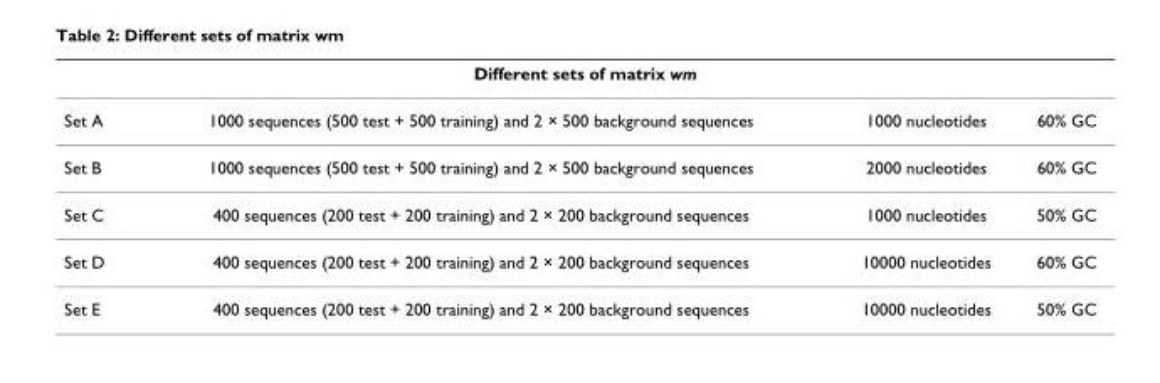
<table><thead><tr><td colspan="4">Different sets of matrix wm</td></tr><tr><td>Set A</td><td>1000 sequences (500 test + 500 training) and 2 × 500 background sequences</td><td>1000 nucleotides</td><td>60% GC</td></tr></thead><tbody><tr><td>Set B</td><td>1000 sequences (500 test + 500 training) and 2 × 500 background sequences</td><td>2000 nucleotides</td><td>60% GC</td></tr><tr><td>Set C</td><td>400 sequences (200 test + 200 training) and 2 × 200 background sequences</td><td>1000 nucleotides</td><td>50% GC</td></tr><tr><td>Set D</td><td>400 sequences (200 test + 200 training) and 2 × 200 background sequences</td><td>10000 nucleotides</td><td>60% GC</td></tr><tr><td>Set E</td><td>400 sequences (200 test + 200 training) and 2 × 200 background sequences</td><td>10000 nucleotides</td><td>50% GC</td></tr></tbody></table>